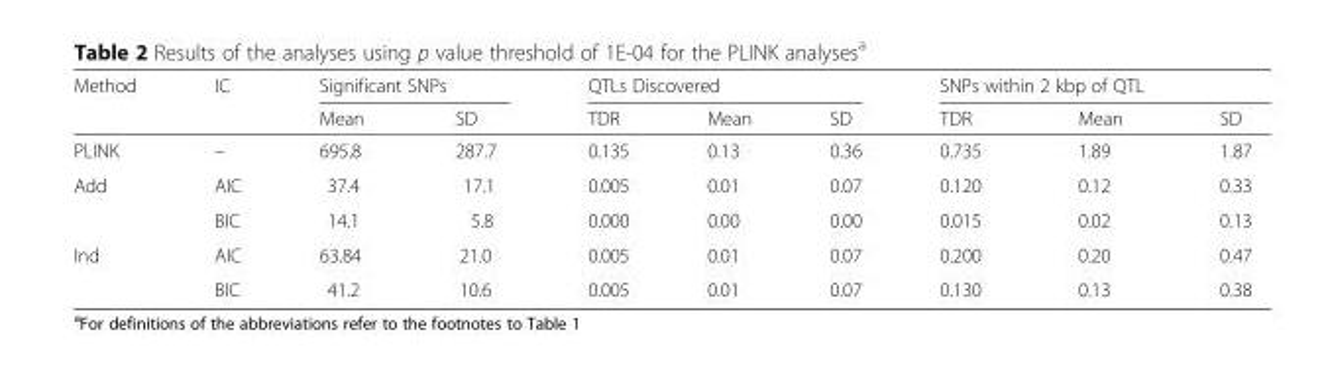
<table><thead><tr><td rowspan="2">Method</td><td rowspan="2">IC</td><td colspan="2">Significant SNPs</td><td colspan="3">QTLs Discovered</td><td colspan="3">SNPs within 2 kbp of QTL</td></tr><tr><td>Mean</td><td>SD</td><td>TDR</td><td>Mean</td><td>SD</td><td>TDR</td><td>Mean</td><td>SD</td></tr></thead><tbody><tr><td>PLINK</td><td>–</td><td>695.8</td><td>287.7</td><td>0.135</td><td>0.13</td><td>0.36</td><td>0.735</td><td>1.89</td><td>1.87</td></tr><tr><td rowspan="2">Add</td><td>AIC</td><td>37.4</td><td>17.1</td><td>0.005</td><td>0.01</td><td>0.07</td><td>0.120</td><td>0.12</td><td>0.33</td></tr><tr><td>BIC</td><td>14.1</td><td>5.8</td><td>0.000</td><td>0.00</td><td>0.00</td><td>0.015</td><td>0.02</td><td>0.13</td></tr><tr><td rowspan="2">Ind</td><td>AIC</td><td>63.84</td><td>21.0</td><td>0.005</td><td>0.01</td><td>0.07</td><td>0.200</td><td>0.20</td><td>0.47</td></tr><tr><td>BIC</td><td>41.2</td><td>10.6</td><td>0.005</td><td>0.01</td><td>0.07</td><td>0.130</td><td>0.13</td><td>0.38</td></tr></tbody></table>